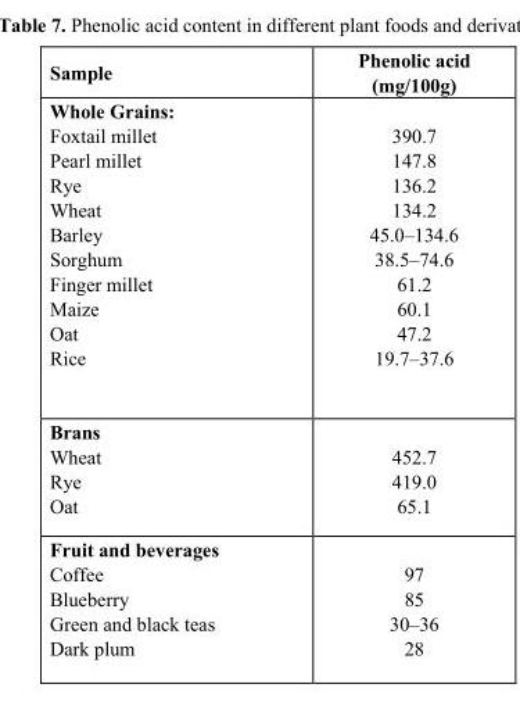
<table><thead><tr><td>Sample</td><td>Phenolic acid (mg/100g)</td></tr></thead><tbody><tr><td colspan="2">Whole Grains:</td></tr><tr><td>Foxtail millet</td><td>390.7</td></tr><tr><td>Pearl millet</td><td>147.8</td></tr><tr><td>Rye</td><td>136.2</td></tr><tr><td>Wheat</td><td>134.2</td></tr><tr><td>Barley</td><td>45.0–134.6</td></tr><tr><td>Sorghum</td><td>38.5–74.6</td></tr><tr><td>Finger millet</td><td>61.2</td></tr><tr><td>Maize</td><td>60.1</td></tr><tr><td>Oat</td><td>47.2</td></tr><tr><td>Rice</td><td>19.7–37.6</td></tr><tr><td colspan="2">Brans</td></tr><tr><td>Wheat</td><td>452.7</td></tr><tr><td>Rye</td><td>419.0</td></tr><tr><td>Oat</td><td>65.1</td></tr><tr><td colspan="2">Fruit and beverages</td></tr><tr><td>Coffee</td><td>97</td></tr><tr><td>Blueberry</td><td>85</td></tr><tr><td>Green and black teas</td><td>30–36</td></tr><tr><td>Dark plum</td><td>28</td></tr></tbody></table>